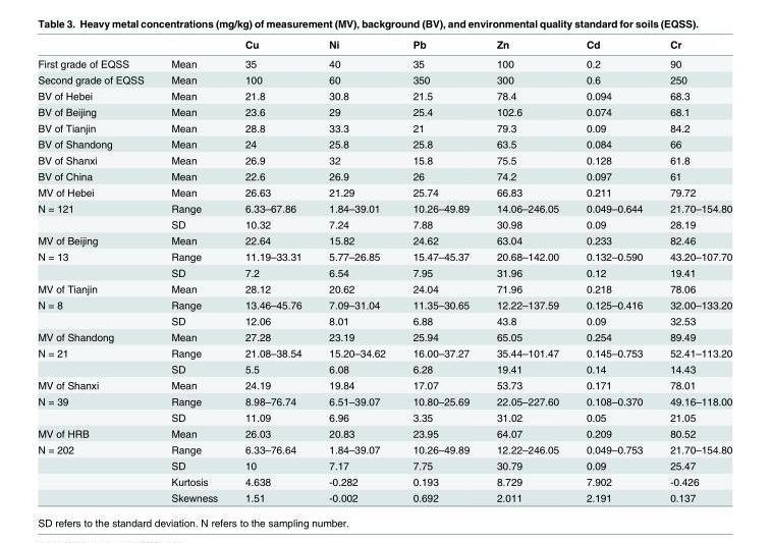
<table><thead><tr><td></td><td></td><td>Cu</td><td>Ni</td><td>Pb</td><td>Zn</td><td>Cd</td><td>Cr</td></tr></thead><tbody><tr><td>First grade of EQSS</td><td>Mean</td><td>35</td><td>40</td><td>35</td><td>100</td><td>0.2</td><td>90</td></tr><tr><td>Second grade of EQSS</td><td>Mean</td><td>100</td><td>60</td><td>350</td><td>300</td><td>0.6</td><td>250</td></tr><tr><td>BV of Hebei</td><td>Mean</td><td>21.8</td><td>30.8</td><td>21.5</td><td>78.4</td><td>0.094</td><td>68.3</td></tr><tr><td>BV of Beijing</td><td>Mean</td><td>23.6</td><td>29</td><td>25.4</td><td>102.6</td><td>0.074</td><td>68.1</td></tr><tr><td>BV of Tianjin</td><td>Mean</td><td>28.8</td><td>33.3</td><td>21</td><td>79.3</td><td>0.09</td><td>84.2</td></tr><tr><td>BV of Shandong</td><td>Mean</td><td>24</td><td>25.8</td><td>25.8</td><td>63.5</td><td>0.084</td><td>66</td></tr><tr><td>BV of Shanxi</td><td>Mean</td><td>26.9</td><td>32</td><td>15.8</td><td>75.5</td><td>0.128</td><td>61.8</td></tr><tr><td>BV of China</td><td>Mean</td><td>22.6</td><td>26.9</td><td>26</td><td>74.2</td><td>0.097</td><td>61</td></tr><tr><td>MV of Hebei</td><td>Mean</td><td>26.63</td><td>21.29</td><td>25.74</td><td>66.83</td><td>0.211</td><td>79.72</td></tr><tr><td rowspan="2">N = 121</td><td>Range</td><td>6.33–67.86</td><td>1.84–39.01</td><td>10.26–49.89</td><td>14.06–246.05</td><td>0.049–0.644</td><td>21.70–154.80</td></tr><tr><td>SD</td><td>10.32</td><td>7.24</td><td>7.88</td><td>30.98</td><td>0.09</td><td>28.19</td></tr><tr><td>MV of Beijing</td><td>Mean</td><td>22.64</td><td>15.82</td><td>24.62</td><td>63.04</td><td>0.233</td><td>82.46</td></tr><tr><td rowspan="2">N = 13</td><td>Range</td><td>11.19–33.31</td><td>5.77–26.85</td><td>15.47–45.37</td><td>20.68–142.00</td><td>0.132–0.590</td><td>43.20–107.70</td></tr><tr><td>SD</td><td>7.2</td><td>6.54</td><td>7.95</td><td>31.96</td><td>0.12</td><td>19.41</td></tr><tr><td>MV of Tianjin</td><td>Mean</td><td>28.12</td><td>20.62</td><td>24.04</td><td>71.96</td><td>0.218</td><td>78.06</td></tr><tr><td rowspan="2">N = 8</td><td>Range</td><td>13.46–45.76</td><td>7.09–31.04</td><td>11.35–30.65</td><td>12.22–137.59</td><td>0.125–0.416</td><td>32.00–133.20</td></tr><tr><td>SD</td><td>12.06</td><td>8.01</td><td>6.88</td><td>43.8</td><td>0.09</td><td>32.53</td></tr><tr><td>MV of Shandong</td><td>Mean</td><td>27.28</td><td>23.19</td><td>25.94</td><td>65.05</td><td>0.254</td><td>89.49</td></tr><tr><td rowspan="2">N = 21</td><td>Range</td><td>21.08–38.54</td><td>15.20–34.62</td><td>16.00–37.27</td><td>35.44–101.47</td><td>0.145–0.753</td><td>52.41–113.20</td></tr><tr><td>SD</td><td>5.5</td><td>6.08</td><td>6.28</td><td>19.41</td><td>0.14</td><td>14.43</td></tr><tr><td>MV of Shanxi</td><td>Mean</td><td>24.19</td><td>19.84</td><td>17.07</td><td>53.73</td><td>0.171</td><td>78.01</td></tr><tr><td rowspan="2">N = 39</td><td>Range</td><td>8.98–76.74</td><td>6.51–39.07</td><td>10.80–25.69</td><td>22.05–227.60</td><td>0.108–0.370</td><td>49.16–118.00</td></tr><tr><td>SD</td><td>11.09</td><td>6.96</td><td>3.35</td><td>31.02</td><td>0.05</td><td>21.05</td></tr><tr><td>MV of HRB</td><td>Mean</td><td>26.03</td><td>20.83</td><td>23.95</td><td>64.07</td><td>0.209</td><td>80.52</td></tr><tr><td rowspan="4">N = 202</td><td>Range</td><td>6.33–76.64</td><td>1.84–39.07</td><td>10.26–49.89</td><td>12.22–246.05</td><td>0.049–0.753</td><td>21.70–154.80</td></tr><tr><td>SD</td><td>10</td><td>7.17</td><td>7.75</td><td>30.79</td><td>0.09</td><td>25.47</td></tr><tr><td>Kurtosis</td><td>4.638</td><td>-0.282</td><td>0.193</td><td>8.729</td><td>7.902</td><td>-0.426</td></tr><tr><td>Skewness</td><td>1.51</td><td>-0.002</td><td>0.692</td><td>2.011</td><td>2.191</td><td>0.137</td></tr></tbody></table>